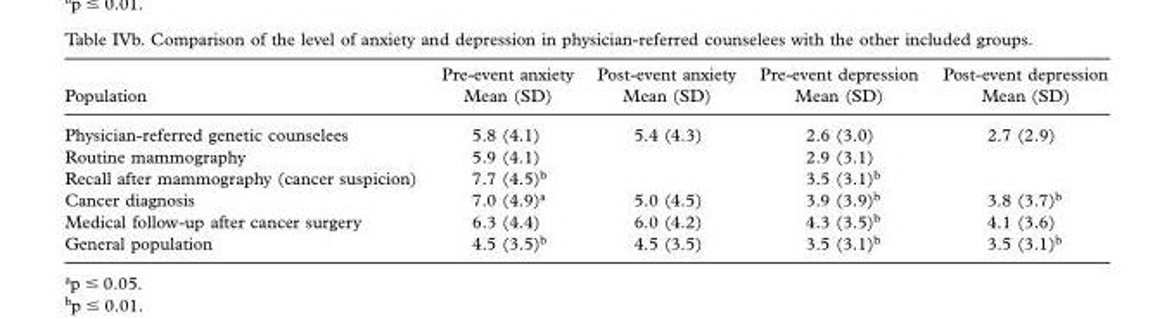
<table><thead><tr><td>Population</td><td>Pre-event anxiety Mean (SD)</td><td>Post-event anxiety Mean (SD)</td><td>Pre-event depression Mean (SD)</td><td>Post-event depression Mean (SD)</td></tr></thead><tbody><tr><td>Physician-referred genetic counselees</td><td>5.8 (4.1)</td><td>5.4 (4.3)</td><td>2.6 (3.0)</td><td>2.7 (2.9)</td></tr><tr><td>Routine mammography</td><td>5.9 (4.1)</td><td></td><td>2.9 (3.1)</td><td></td></tr><tr><td>Recall after mammography (cancer suspicion)</td><td>7.7 (4.5) <sup>b</sup></td><td></td><td>3.5 (3.1) <sup>b</sup></td><td></td></tr><tr><td>Cancer diagnosis</td><td>7.0 (4.9) <sup>a</sup></td><td>5.0 (4.5)</td><td>3.9 (3.9) <sup>b</sup></td><td>3.8 (3.7) <sup>b</sup></td></tr><tr><td>Medical follow-up after cancer surgery</td><td>6.3 (4.4)</td><td>6.0 (4.2)</td><td>4.3 (3.5) <sup>b</sup></td><td>4.1 (3.6)</td></tr><tr><td>General population</td><td>4.5 (3.5) <sup>b</sup></td><td>4.5 (3.5)</td><td>3.5 (3.1) <sup>b</sup></td><td>3.5 (3.1) <sup>b</sup></td></tr></tbody></table>